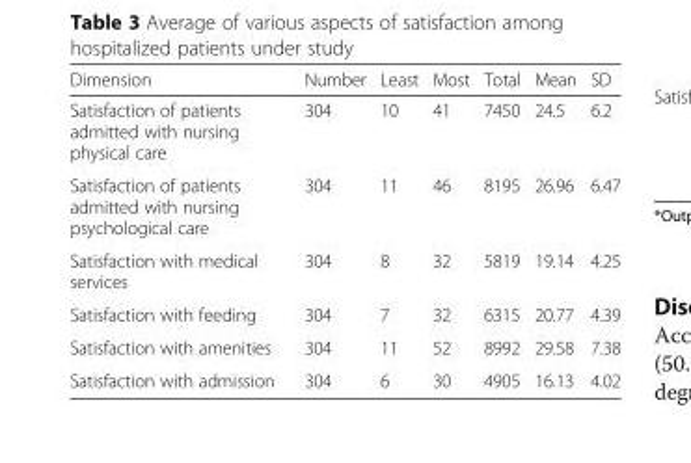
<table><thead><tr><td>Dimension</td><td>Number</td><td>Least</td><td>Most</td><td>Total</td><td>Mean</td><td>SD</td></tr></thead><tbody><tr><td>Satisfaction of patients admitted with nursing physical care</td><td>304</td><td>10</td><td>41</td><td>7450</td><td>24.5</td><td>6.2</td></tr><tr><td>Satisfaction of patients admitted with nursing psychological care</td><td>304</td><td>11</td><td>46</td><td>8195</td><td>26.96</td><td>6.47</td></tr><tr><td>Satisfaction with medical services</td><td>304</td><td>8</td><td>32</td><td>5819</td><td>19.14</td><td>4.25</td></tr><tr><td>Satisfaction with feeding</td><td>304</td><td>7</td><td>32</td><td>6315</td><td>20.77</td><td>4.39</td></tr><tr><td>Satisfaction with amenities</td><td>304</td><td>11</td><td>52</td><td>8992</td><td>29.58</td><td>7.38</td></tr><tr><td>Satisfaction with admission</td><td>304</td><td>6</td><td>30</td><td>4905</td><td>16.13</td><td>4.02</td></tr></tbody></table>